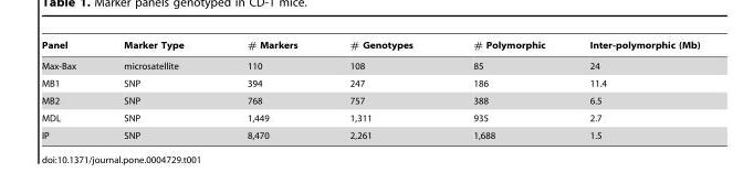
<table><thead><tr><td>Panel</td><td>Marker Type</td><td># Markers</td><td># Genotypes</td><td># Polymorphic</td><td>Inter-polymorphic (Mb)</td></tr></thead><tbody><tr><td>Max-Bax</td><td>microsatellite</td><td>110</td><td>108</td><td>85</td><td>24</td></tr><tr><td>MB1</td><td>SNP</td><td>394</td><td>247</td><td>186</td><td>11.4</td></tr><tr><td>MB2</td><td>SNP</td><td>768</td><td>757</td><td>388</td><td>6.5</td></tr><tr><td>MDL</td><td>SNP</td><td>1,449</td><td>1,311</td><td>935</td><td>2.7</td></tr><tr><td>IP</td><td>SNP</td><td>8,470</td><td>2,261</td><td>1,688</td><td>1.5</td></tr></tbody></table>